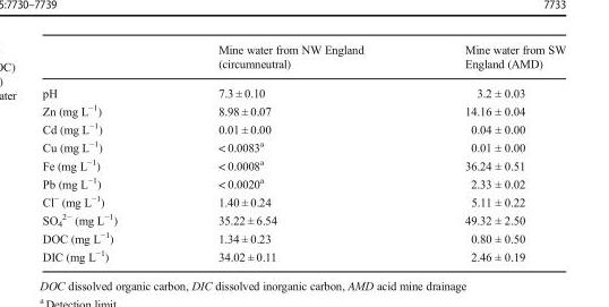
<table><thead><tr><td></td><td>Mine water from NW England (circumneutral)</td><td>Mine water from SW England (AMD)</td></tr></thead><tbody><tr><td>pH</td><td>7.3 ± 0.10</td><td>3.2 ± 0.03</td></tr><tr><td>Zn (mg L<sup>−1</sup>)</td><td>8.98 ± 0.07</td><td>14.16 ± 0.04</td></tr><tr><td>Cd (mg L<sup>−1</sup>)</td><td>0.01 ± 0.00</td><td>0.04 ± 0.00</td></tr><tr><td>Cu (mg L<sup>−1</sup>)</td><td>&lt; 0.0083<sup>a</sup></td><td>0.01 ± 0.00</td></tr><tr><td>Fe (mg L<sup>−1</sup>)</td><td>&lt; 0.0008<sup>a</sup></td><td>36.24 ± 0.51</td></tr><tr><td>Pb (mg L<sup>−1</sup>)</td><td>&lt; 0.0020<sup>a</sup></td><td>2.33 ± 0.02</td></tr><tr><td>Cl<sup>−</sup> (mg L<sup>−1</sup>)</td><td>1.40 ± 0.24</td><td>5.11 ± 0.22</td></tr><tr><td>SO<sub>4</sub> <sup>2−</sup> (mg L<sup>−1</sup>)</td><td>35.22 ± 6.54</td><td>49.32 ± 2.50</td></tr><tr><td>DOC (mg L<sup>−1</sup>)</td><td>1.34 ± 0.23</td><td>0.80 ± 0.50</td></tr><tr><td>DIC (mg L<sup>−1</sup>)</td><td>34.02 ± 0.11</td><td>2.46 ± 0.19</td></tr></tbody></table>